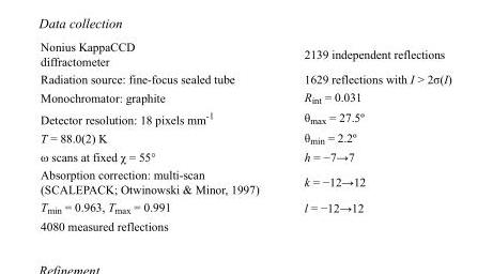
<table><tbody><tr><td>Nonius KappaCCD diffractometer</td><td>2139 independent reflections</td></tr><tr><td>Radiation source: fine-focus sealed tube</td><td>1629 reflections with I &gt; 2σ(I)</td></tr><tr><td>Monochromator: graphite</td><td>R<sub>int</sub> = 0.031</td></tr><tr><td>Detector resolution: 18 pixels mm<sup>-1</sup></td><td>θ<sub>max</sub> = 27.5º</td></tr><tr><td>T = 88.0(2) K</td><td>θ<sub>min</sub> = 2.2º</td></tr><tr><td>ω scans at fixed χ = 55°</td><td>h = −7→7</td></tr><tr><td>Absorption correction: multi-scan (SCALEPACK; Otwinowski &amp; Minor, 1997)</td><td>k = −12→12</td></tr><tr><td>T<sub>min</sub> = 0.963, T<sub>max</sub> = 0.991</td><td>l = −12→12</td></tr><tr><td>4080 measured reflections</td><td></td></tr></tbody></table>